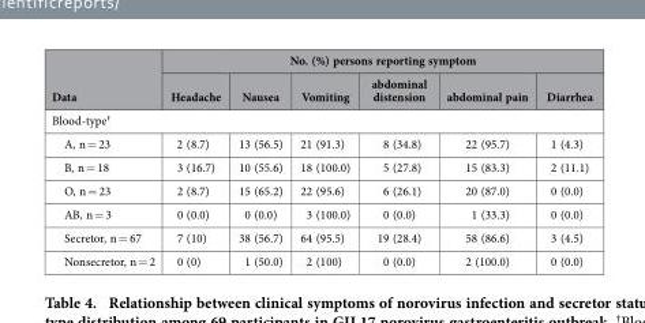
<table><thead><tr><td rowspan="2">Data</td><td colspan="6">No. (%) persons reporting symptom</td></tr><tr><td>Headache</td><td>Nausea</td><td>Vomiting</td><td>abdominal distension</td><td>abdominal pain</td><td>Diarrhea</td></tr></thead><tbody><tr><td colspan="7">Blood-type†</td></tr><tr><td>A, n = 23</td><td>2 (8.7)</td><td>13 (56.5)</td><td>21 (91.3)</td><td>8 (34.8)</td><td>22 (95.7)</td><td>1 (4.3)</td></tr><tr><td>B, n = 18</td><td>3 (16.7)</td><td>10 (55.6)</td><td>18 (100.0)</td><td>5 (27.8)</td><td>15 (83.3)</td><td>2 (11.1)</td></tr><tr><td>O, n = 23</td><td>2 (8.7)</td><td>15 (65.2)</td><td>22 (95.6)</td><td>6 (26.1)</td><td>20 (87.0)</td><td>0 (0.0)</td></tr><tr><td>AB, n = 3</td><td>0 (0.0)</td><td>0 (0.0)</td><td>3 (100.0)</td><td>0 (0.0)</td><td>1 (33.3)</td><td>0 (0.0)</td></tr><tr><td>Secretor, n = 67</td><td>7 (10)</td><td>38 (56.7)</td><td>64 (95.5)</td><td>19 (28.4)</td><td>58 (86.6)</td><td>3 (4.5)</td></tr><tr><td>Nonsecretor, n = 2</td><td>0 (0)</td><td>1 (50.0)</td><td>2 (100)</td><td>0 (0.0)</td><td>2 (100.0)</td><td>0 (0.0)</td></tr></tbody></table>